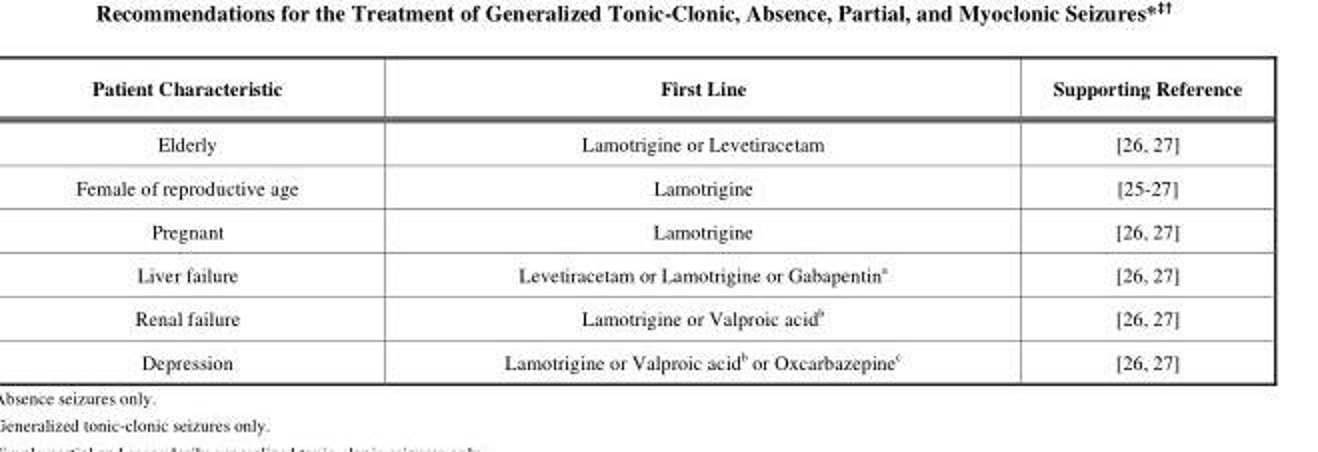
<table><thead><tr><td>Patient Characteristic</td><td>First Line</td><td>Supporting Reference</td></tr></thead><tbody><tr><td>Elderly</td><td>Lamotrigine or Levetiracetam</td><td>[26, 27]</td></tr><tr><td>Female of reproductive age</td><td>Lamotrigine</td><td>[25-27]</td></tr><tr><td>Pregnant</td><td>Lamotrigine</td><td>[26, 27]</td></tr><tr><td>Liver failure</td><td>Levetiracetam or Lamotrigine or Gabapentin<sup>a</sup></td><td>[26, 27]</td></tr><tr><td>Renal failure</td><td>Lamotrigine or Valproic acid<sup>b</sup></td><td>[26, 27]</td></tr><tr><td>Depression</td><td>Lamotrigine or Valproic acid<sup>b</sup> or Oxcarbazepine<sup>c</sup></td><td>[26, 27]</td></tr></tbody></table>